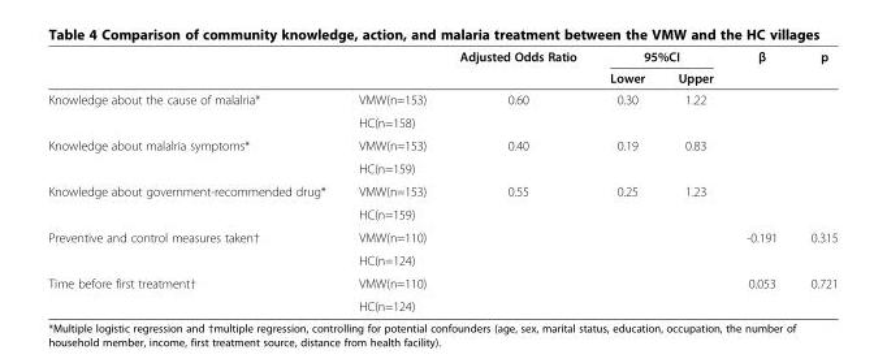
<table><thead><tr><td rowspan="2"></td><td rowspan="2"></td><td rowspan="2">Adjusted Odds Ratio</td><td colspan="2">95%CI</td><td rowspan="2">β</td><td rowspan="2">p</td></tr><tr><td>Lower</td><td>Upper</td></tr></thead><tbody><tr><td rowspan="2">Knowledge about the cause of malalria*</td><td>VMW(n=153)</td><td>0.60</td><td>0.30</td><td>1.22</td><td></td><td></td></tr><tr><td>HC(n=158)</td><td></td><td></td><td></td><td></td><td></td></tr><tr><td rowspan="2">Knowledge about malalria symptoms*</td><td>VMW(n=153)</td><td>0.40</td><td>0.19</td><td>0.83</td><td></td><td></td></tr><tr><td>HC(n=159)</td><td></td><td></td><td></td><td></td><td></td></tr><tr><td rowspan="2">Knowledge about government-recommended drug*</td><td>VMW(n=153)</td><td>0.55</td><td>0.25</td><td>1.23</td><td></td><td></td></tr><tr><td>HC(n=159)</td><td></td><td></td><td></td><td></td><td></td></tr><tr><td rowspan="2">Preventive and control measures taken†</td><td>VMW(n=110)</td><td></td><td></td><td></td><td>-0.191</td><td>0.315</td></tr><tr><td>HC(n=124)</td><td></td><td></td><td></td><td></td><td></td></tr><tr><td rowspan="2">Time before first treatment†</td><td>VMW(n=110)</td><td></td><td></td><td></td><td>0.053</td><td>0.721</td></tr><tr><td>HC(n=124)</td><td></td><td></td><td></td><td></td><td></td></tr></tbody></table>